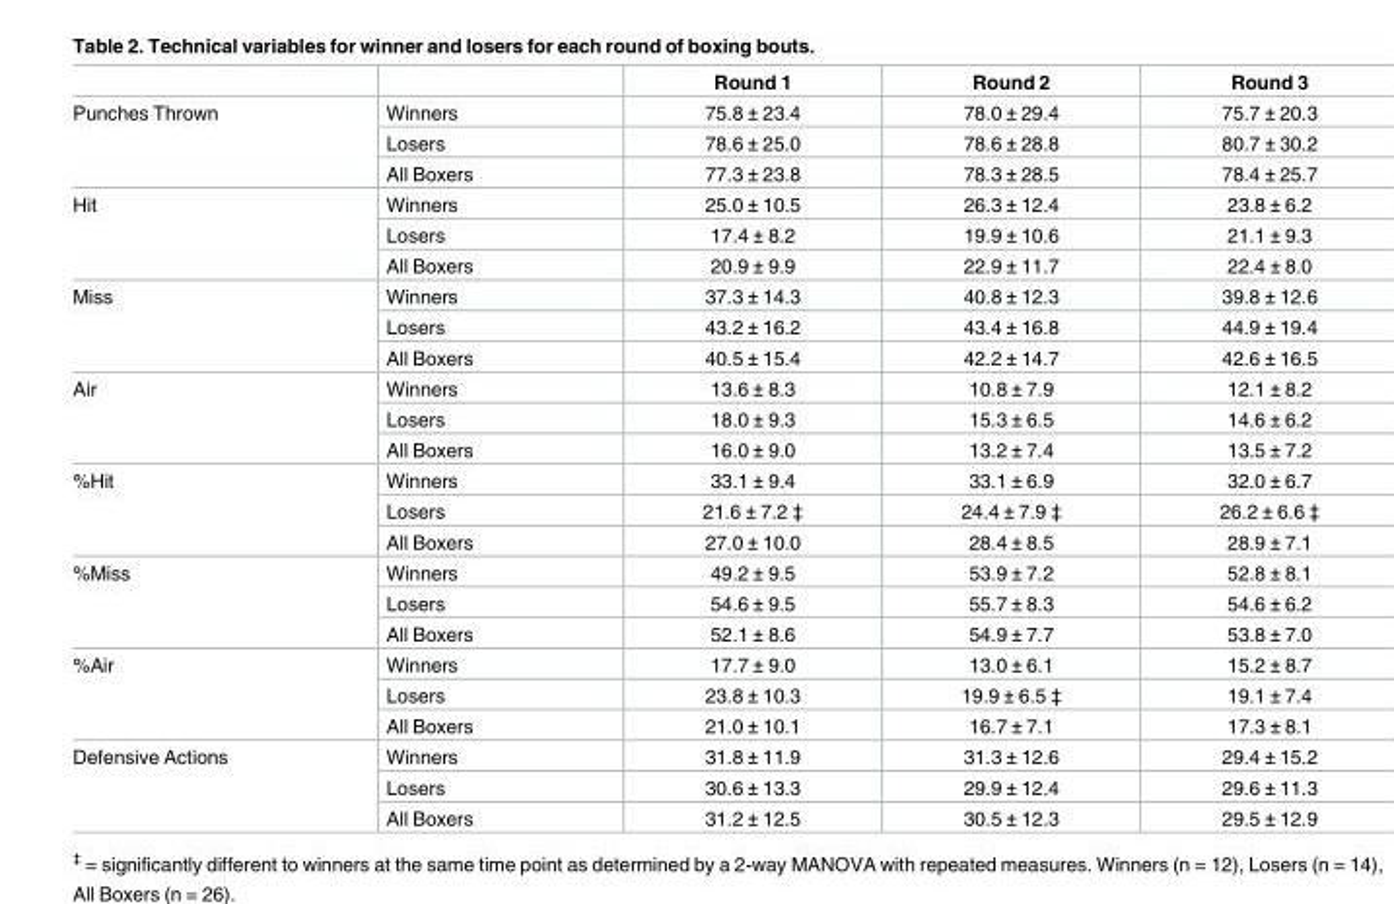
<table><thead><tr><td></td><td></td><td>Round 1</td><td>Round 2</td><td>Round 3</td></tr></thead><tbody><tr><td rowspan="3">Punches Thrown</td><td>Winners</td><td>75.8 ± 23.4</td><td>78.0 ± 29.4</td><td>75.7 ± 20.3</td></tr><tr><td>Losers</td><td>78.6 ± 25.0</td><td>78.6 ± 28.8</td><td>80.7 ± 30.2</td></tr><tr><td>All Boxers</td><td>77.3 ± 23.8</td><td>78.3 ± 28.5</td><td>78.4 ± 25.7</td></tr><tr><td rowspan="3">Hit</td><td>Winners</td><td>25.0 ± 10.5</td><td>26.3 ± 12.4</td><td>23.8 ± 6.2</td></tr><tr><td>Losers</td><td>17.4 ± 8.2</td><td>19.9 ± 10.6</td><td>21.1 ± 9.3</td></tr><tr><td>All Boxers</td><td>20.9 ± 9.9</td><td>22.9 ± 11.7</td><td>22.4 ± 8.0</td></tr><tr><td rowspan="3">Miss</td><td>Winners</td><td>37.3 ± 14.3</td><td>40.8 ± 12.3</td><td>39.8 ± 12.6</td></tr><tr><td>Losers</td><td>43.2 ± 16.2</td><td>43.4 ± 16.8</td><td>44.9 ± 19.4</td></tr><tr><td>All Boxers</td><td>40.5 ± 15.4</td><td>42.2 ± 14.7</td><td>42.6 ± 16.5</td></tr><tr><td rowspan="3">Air</td><td>Winners</td><td>13.6 ± 8.3</td><td>10.8 ± 7.9</td><td>12.1 ± 8.2</td></tr><tr><td>Losers</td><td>18.0 ± 9.3</td><td>15.3 ± 6.5</td><td>14.6 ± 6.2</td></tr><tr><td>All Boxers</td><td>16.0 ± 9.0</td><td>13.2 ± 7.4</td><td>13.5 ± 7.2</td></tr><tr><td rowspan="3">%Hit</td><td>Winners</td><td>33.1 ± 9.4</td><td>33.1 ± 6.9</td><td>32.0 ± 6.7</td></tr><tr><td>Losers</td><td>21.6 ± 7.2 ‡</td><td>24.4 ± 7.9 ‡</td><td>26.2 ± 6.6 ‡</td></tr><tr><td>All Boxers</td><td>27.0 ± 10.0</td><td>28.4 ± 8.5</td><td>28.9 ± 7.1</td></tr><tr><td rowspan="3">%Miss</td><td>Winners</td><td>49.2 ± 9.5</td><td>53.9 ± 7.2</td><td>52.8 ± 8.1</td></tr><tr><td>Losers</td><td>54.6 ± 9.5</td><td>55.7 ± 8.3</td><td>54.6 ± 6.2</td></tr><tr><td>All Boxers</td><td>52.1 ± 8.6</td><td>54.9 ± 7.7</td><td>53.8 ± 7.0</td></tr><tr><td rowspan="3">%Air</td><td>Winners</td><td>17.7 ± 9.0</td><td>13.0 ± 6.1</td><td>15.2 ± 8.7</td></tr><tr><td>Losers</td><td>23.8 ± 10.3</td><td>19.9 ± 6.5 ‡</td><td>19.1 ± 7.4</td></tr><tr><td>All Boxers</td><td>21.0 ± 10.1</td><td>16.7 ± 7.1</td><td>17.3 ± 8.1</td></tr><tr><td rowspan="3">Defensive Actions</td><td>Winners</td><td>31.8 ± 11.9</td><td>31.3 ± 12.6</td><td>29.4 ± 15.2</td></tr><tr><td>Losers</td><td>30.6 ± 13.3</td><td>29.9 ± 12.4</td><td>29.6 ± 11.3</td></tr><tr><td>All Boxers</td><td>31.2 ± 12.5</td><td>30.5 ± 12.3</td><td>29.5 ± 12.9</td></tr></tbody></table>